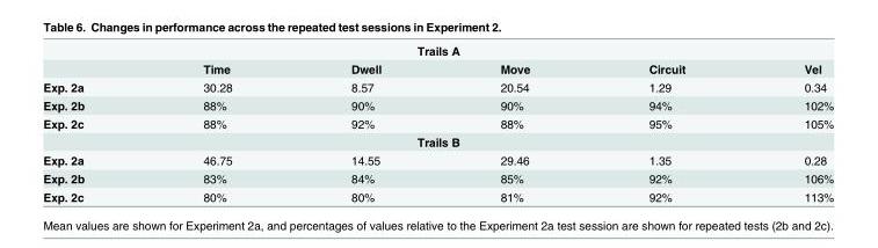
<table><tbody><tr><td colspan="6">Trails A</td></tr><tr><td></td><td>Time</td><td>Dwell</td><td>Move</td><td>Circuit</td><td>Vel</td></tr><tr><td>Exp. 2a</td><td>30.28</td><td>8.57</td><td>20.54</td><td>1.29</td><td>0.34</td></tr><tr><td>Exp. 2b</td><td>88%</td><td>90%</td><td>90%</td><td>94%</td><td>102%</td></tr><tr><td>Exp. 2c</td><td>88%</td><td>92%</td><td>88%</td><td>95%</td><td>105%</td></tr><tr><td colspan="6">Trails B</td></tr><tr><td>Exp. 2a</td><td>46.75</td><td>14.55</td><td>29.46</td><td>1.35</td><td>0.28</td></tr><tr><td>Exp. 2b</td><td>83%</td><td>84%</td><td>85%</td><td>92%</td><td>106%</td></tr><tr><td>Exp. 2c</td><td>80%</td><td>80%</td><td>81%</td><td>92%</td><td>113%</td></tr></tbody></table>